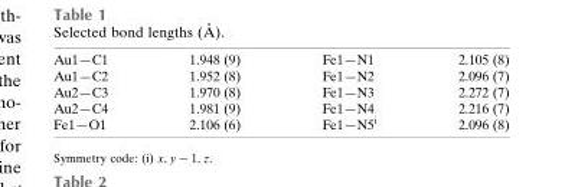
<table><tbody><tr><td>Au1—C1</td><td>1.948 (9)</td><td>Fe1—N1</td><td>2.105 (8)</td></tr><tr><td>Au1—C2</td><td>1.952 (8)</td><td>Fe1—N2</td><td>2.096 (7)</td></tr><tr><td>Au2—C3</td><td>1.970 (8)</td><td>Fe1—N3</td><td>2.272 (7)</td></tr><tr><td>Au2—C4</td><td>1.981 (9)</td><td>Fe1—N4</td><td>2.216 (7)</td></tr><tr><td>Fe1—O1</td><td>2.106 (6)</td><td>Fe1—N5<sup>i</sup></td><td>2.096 (8)</td></tr></tbody></table>